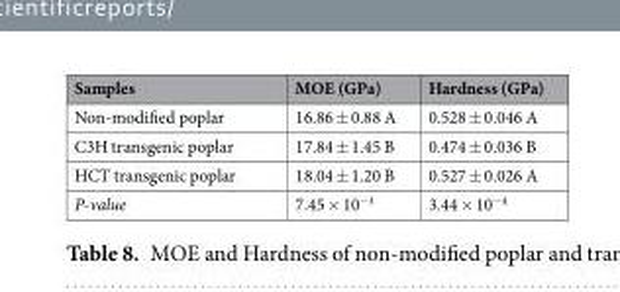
<table><thead><tr><td>Samples</td><td>MOE (GPa)</td><td>Hardness (GPa)</td></tr></thead><tbody><tr><td>Non-modified poplar</td><td>16.86 ± 0.88 A</td><td>0.528 ± 0.046 A</td></tr><tr><td>C3H transgenic poplar</td><td>17.84 ± 1.45 B</td><td>0.474 ± 0.036 B</td></tr><tr><td>HCT transgenic poplar</td><td>18.04 ± 1.20 B</td><td>0.527 ± 0.026 A</td></tr><tr><td>P-value</td><td>7.45 × 10<sup>−3</sup></td><td>3.44 × 10<sup>−4</sup></td></tr></tbody></table>